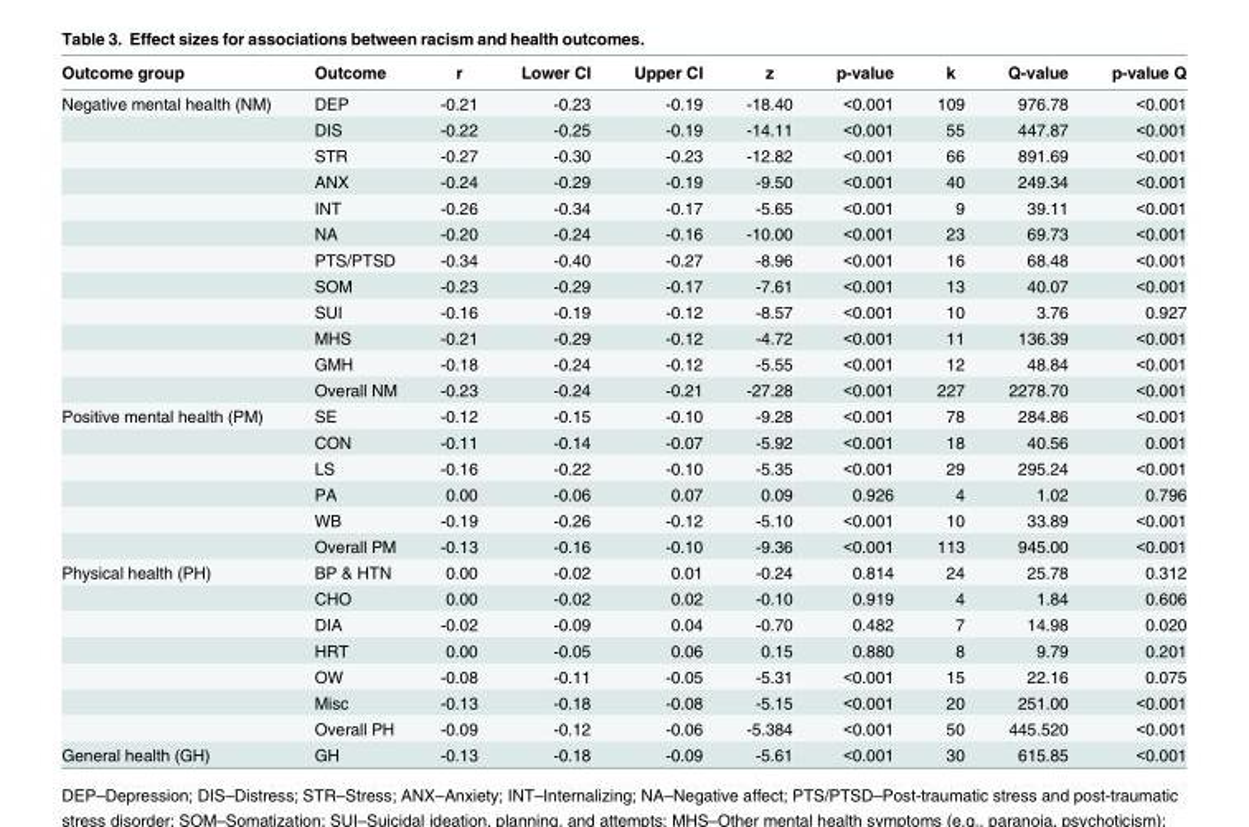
<table><thead><tr><td>Outcome group</td><td>Outcome</td><td>r</td><td>Lower CI</td><td>Upper CI</td><td>z</td><td>p-value</td><td>k</td><td>Q-value</td><td>p-value Q</td></tr></thead><tbody><tr><td rowspan="12">Negative mental health (NM)</td><td>DEP</td><td>-0.21</td><td>-0.23</td><td>-0.19</td><td>-18.40</td><td>&lt;0.001</td><td>109</td><td>976.78</td><td>&lt;0.001</td></tr><tr><td>DIS</td><td>-0.22</td><td>-0.25</td><td>-0.19</td><td>-14.11</td><td>&lt;0.001</td><td>55</td><td>447.87</td><td>&lt;0.001</td></tr><tr><td>STR</td><td>-0.27</td><td>-0.30</td><td>-0.23</td><td>-12.82</td><td>&lt;0.001</td><td>66</td><td>891.69</td><td>&lt;0.001</td></tr><tr><td>ANX</td><td>-0.24</td><td>-0.29</td><td>-0.19</td><td>-9.50</td><td>&lt;0.001</td><td>40</td><td>249.34</td><td>&lt;0.001</td></tr><tr><td>INT</td><td>-0.26</td><td>-0.34</td><td>-0.17</td><td>-5.65</td><td>&lt;0.001</td><td>9</td><td>39.11</td><td>&lt;0.001</td></tr><tr><td>NA</td><td>-0.20</td><td>-0.24</td><td>-0.16</td><td>-10.00</td><td>&lt;0.001</td><td>23</td><td>69.73</td><td>&lt;0.001</td></tr><tr><td>PTS/PTSD</td><td>-0.34</td><td>-0.40</td><td>-0.27</td><td>-8.96</td><td>&lt;0.001</td><td>16</td><td>68.48</td><td>&lt;0.001</td></tr><tr><td>SOM</td><td>-0.23</td><td>-0.29</td><td>-0.17</td><td>-7.61</td><td>&lt;0.001</td><td>13</td><td>40.07</td><td>&lt;0.001</td></tr><tr><td>SUI</td><td>-0.16</td><td>-0.19</td><td>-0.12</td><td>-8.57</td><td>&lt;0.001</td><td>10</td><td>3.76</td><td>0.927</td></tr><tr><td>MHS</td><td>-0.21</td><td>-0.29</td><td>-0.12</td><td>-4.72</td><td>&lt;0.001</td><td>11</td><td>136.39</td><td>&lt;0.001</td></tr><tr><td>GMH</td><td>-0.18</td><td>-0.24</td><td>-0.12</td><td>-5.55</td><td>&lt;0.001</td><td>12</td><td>48.84</td><td>&lt;0.001</td></tr><tr><td>Overall NM</td><td>-0.23</td><td>-0.24</td><td>-0.21</td><td>-27.28</td><td>&lt;0.001</td><td>227</td><td>2278.70</td><td>&lt;0.001</td></tr><tr><td rowspan="6">Positive mental health (PM)</td><td>SE</td><td>-0.12</td><td>-0.15</td><td>-0.10</td><td>-9.28</td><td>&lt;0.001</td><td>78</td><td>284.86</td><td>&lt;0.001</td></tr><tr><td>CON</td><td>-0.11</td><td>-0.14</td><td>-0.07</td><td>-5.92</td><td>&lt;0.001</td><td>18</td><td>40.56</td><td>0.001</td></tr><tr><td>LS</td><td>-0.16</td><td>-0.22</td><td>-0.10</td><td>-5.35</td><td>&lt;0.001</td><td>29</td><td>295.24</td><td>&lt;0.001</td></tr><tr><td>PA</td><td>0.00</td><td>-0.06</td><td>0.07</td><td>0.09</td><td>0.926</td><td>4</td><td>1.02</td><td>0.796</td></tr><tr><td>WB</td><td>-0.19</td><td>-0.26</td><td>-0.12</td><td>-5.10</td><td>&lt;0.001</td><td>10</td><td>33.89</td><td>&lt;0.001</td></tr><tr><td>Overall PM</td><td>-0.13</td><td>-0.16</td><td>-0.10</td><td>-9.36</td><td>&lt;0.001</td><td>113</td><td>945.00</td><td>&lt;0.001</td></tr><tr><td rowspan="7">Physical health (PH)</td><td>BP &amp; HTN</td><td>0.00</td><td>-0.02</td><td>0.01</td><td>-0.24</td><td>0.814</td><td>24</td><td>25.78</td><td>0.312</td></tr><tr><td>CHO</td><td>0.00</td><td>-0.02</td><td>0.02</td><td>-0.10</td><td>0.919</td><td>4</td><td>1.84</td><td>0.606</td></tr><tr><td>DIA</td><td>-0.02</td><td>-0.09</td><td>0.04</td><td>-0.70</td><td>0.482</td><td>7</td><td>14.98</td><td>0.020</td></tr><tr><td>HRT</td><td>0.00</td><td>-0.05</td><td>0.06</td><td>0.15</td><td>0.880</td><td>8</td><td>9.79</td><td>0.201</td></tr><tr><td>OW</td><td>-0.08</td><td>-0.11</td><td>-0.05</td><td>-5.31</td><td>&lt;0.001</td><td>15</td><td>22.16</td><td>0.075</td></tr><tr><td>Misc</td><td>-0.13</td><td>-0.18</td><td>-0.08</td><td>-5.15</td><td>&lt;0.001</td><td>20</td><td>251.00</td><td>&lt;0.001</td></tr><tr><td>Overall PH</td><td>-0.09</td><td>-0.12</td><td>-0.06</td><td>-5.384</td><td>&lt;0.001</td><td>50</td><td>445.520</td><td>&lt;0.001</td></tr><tr><td>General health (GH)</td><td>GH</td><td>-0.13</td><td>-0.18</td><td>-0.09</td><td>-5.61</td><td>&lt;0.001</td><td>30</td><td>615.85</td><td>&lt;0.001</td></tr></tbody></table>